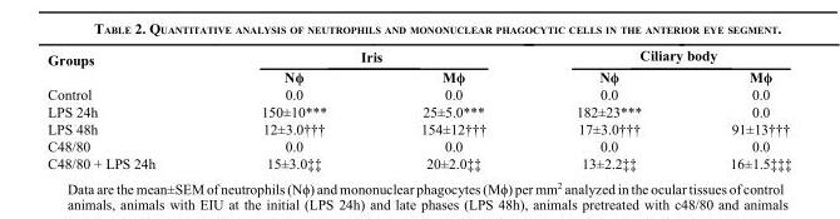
<table><thead><tr><td rowspan="2">Groups</td><td colspan="2">Iris</td><td colspan="2">Ciliary body</td></tr><tr><td>Nϕ</td><td>Mϕ</td><td>Nϕ</td><td>Mϕ</td></tr></thead><tbody><tr><td>Control</td><td>0.0</td><td>0.0</td><td>0.0</td><td>0.0</td></tr><tr><td>LPS 24h</td><td>150±10***</td><td>25±5.0***</td><td>182±23***</td><td>0.0</td></tr><tr><td>LPS 48h</td><td>12±3.0†††</td><td>154±12†††</td><td>17±3.0†††</td><td>91±13†††</td></tr><tr><td>C48/80</td><td>0.0</td><td>0.0</td><td>0.0</td><td>0.0</td></tr><tr><td>C48/80 + LPS 24h</td><td>15±3.0‡‡</td><td>20±2.0‡‡</td><td>13±2.2‡‡</td><td>16±1.5‡‡‡</td></tr></tbody></table>